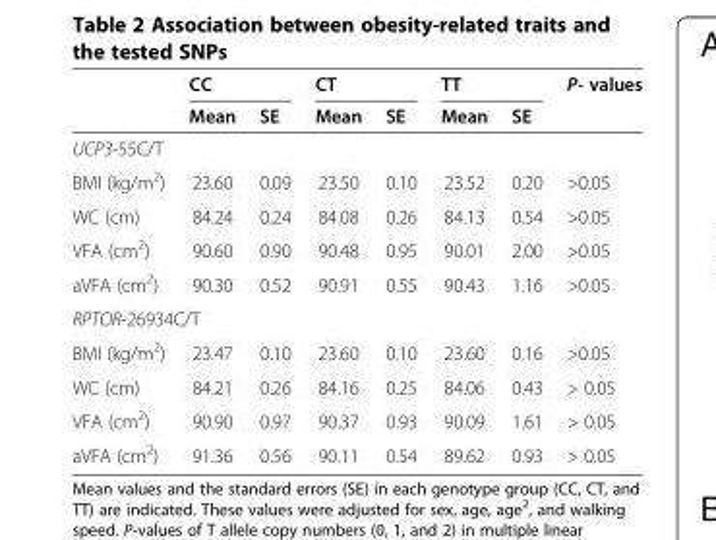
<table><thead><tr><td rowspan="2"></td><td colspan="2">CC</td><td colspan="2">CT</td><td colspan="2">TT</td><td rowspan="2">P- values</td></tr><tr><td>Mean</td><td>SE</td><td>Mean</td><td>SE</td><td>Mean</td><td>SE</td></tr></thead><tbody><tr><td colspan="8">UCP3-55C/T</td></tr><tr><td>BMI (kg/m<sup>2</sup>)</td><td>23.60</td><td>0.09</td><td>23.50</td><td>0.10</td><td>23.52</td><td>0.20</td><td>&gt;0.05</td></tr><tr><td>WC (cm)</td><td>84.24</td><td>0.24</td><td>84.08</td><td>0.26</td><td>84.13</td><td>0.54</td><td>&gt;0.05</td></tr><tr><td>VFA (cm<sup>2</sup>)</td><td>90.60</td><td>0.90</td><td>90.48</td><td>0.95</td><td>90.01</td><td>2.00</td><td>&gt;0.05</td></tr><tr><td>aVFA (cm<sup>2</sup>)</td><td>90.30</td><td>0.52</td><td>90.91</td><td>0.55</td><td>90.43</td><td>1.16</td><td>&gt;0.05</td></tr><tr><td colspan="8">RPTOR-26934C/T</td></tr><tr><td>BMI (kg/m<sup>2</sup>)</td><td>23.47</td><td>0.10</td><td>23.60</td><td>0.10</td><td>23.60</td><td>0.16</td><td>&gt;0.05</td></tr><tr><td>WC (cm)</td><td>84.21</td><td>0.26</td><td>84.16</td><td>0.25</td><td>84.06</td><td>0.43</td><td>&gt; 0.05</td></tr><tr><td>VFA (cm<sup>2</sup>)</td><td>90.90</td><td>0.97</td><td>90.37</td><td>0.93</td><td>90.09</td><td>1.61</td><td>&gt; 0.05</td></tr><tr><td>aVFA (cm<sup>2</sup>)</td><td>91.36</td><td>0.56</td><td>90.11</td><td>0.54</td><td>89.62</td><td>0.93</td><td>&gt; 0.05</td></tr></tbody></table>